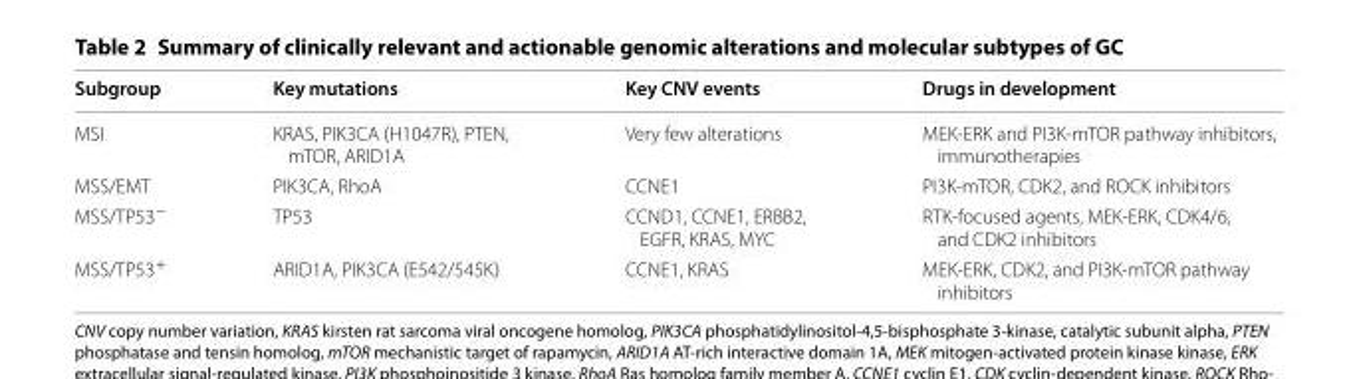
<table><thead><tr><td>Subgroup</td><td>Key mutations</td><td>Key CNV events</td><td>Drugs in development</td></tr></thead><tbody><tr><td>MSI</td><td>KRAS, PIK3CA (H1047R), PTEN, mTOR, ARID1A</td><td>Very few alterations</td><td>MEK-ERK and PI3K-mTOR pathway inhibitors, immunotherapies</td></tr><tr><td>MSS/EMT</td><td>PIK3CA, RhoA</td><td>CCNE1</td><td>PI3K-mTOR, CDK2, and ROCK inhibitors</td></tr><tr><td>MSS/TP53<sup>−</sup></td><td>TP53</td><td>CCND1, CCNE1, ERBB2, EGFR, KRAS, MYC</td><td>RTK-focused agents, MEK-ERK, CDK4/6, and CDK2 inhibitors</td></tr><tr><td>MSS/TP53<sup>+</sup></td><td>ARID1A, PIK3CA (E542/545K)</td><td>CCNE1, KRAS</td><td>MEK-ERK, CDK2, and PI3K-mTOR pathway inhibitors</td></tr></tbody></table>